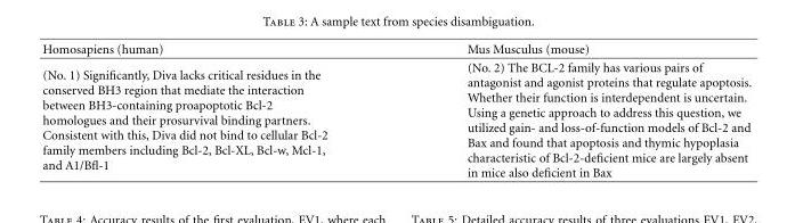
<table><thead><tr><td>Homosapiens (human)</td><td>Mus Musculus (mouse)</td></tr></thead><tbody><tr><td>(No. 1) Significantly, Diva lacks critical residues in the conserved BH3 region that mediate the interaction between BH3-containing proapoptotic Bcl-2 homologues and their prosurvival binding partners. Consistent with this, Diva did not bind to cellular Bcl-2 family members including Bcl-2, Bcl-XL, Bcl-w, Mcl-1, and A1/Bfl-1</td><td>(No. 2) The BCL-2 family has various pairs of antagonist and agonist proteins that regulate apoptosis. Whether their function is interdependent is uncertain. Using a genetic approach to address this question, we utilized gain- and loss-of-function models of Bcl-2 and Bax and found that apoptosis and thymic hypoplasia characteristic of Bcl-2-deficient mice are largely absent in mice also deficient in Bax</td></tr></tbody></table>